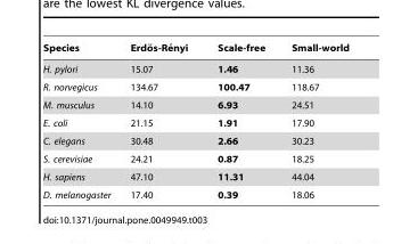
<table><thead><tr><td>Species</td><td>Erdo¨ s-Re´nyi</td><td>Scale-free</td><td>Small-world</td></tr></thead><tbody><tr><td>H. pylori</td><td>15.07</td><td>1.46</td><td>11.36</td></tr><tr><td>R. norvegicus</td><td>134.67</td><td>100.47</td><td>118.67</td></tr><tr><td>M. musculus</td><td>14.10</td><td>6.93</td><td>24.51</td></tr><tr><td>E. coli</td><td>21.15</td><td>1.91</td><td>17.90</td></tr><tr><td>C. elegans</td><td>30.48</td><td>2.66</td><td>30.23</td></tr><tr><td>S. cerevisiae</td><td>24.21</td><td>0.87</td><td>18.25</td></tr><tr><td>H. sapiens</td><td>47.10</td><td>11.31</td><td>44.04</td></tr><tr><td>D. melanogaster</td><td>17.40</td><td>0.39</td><td>18.06</td></tr></tbody></table>